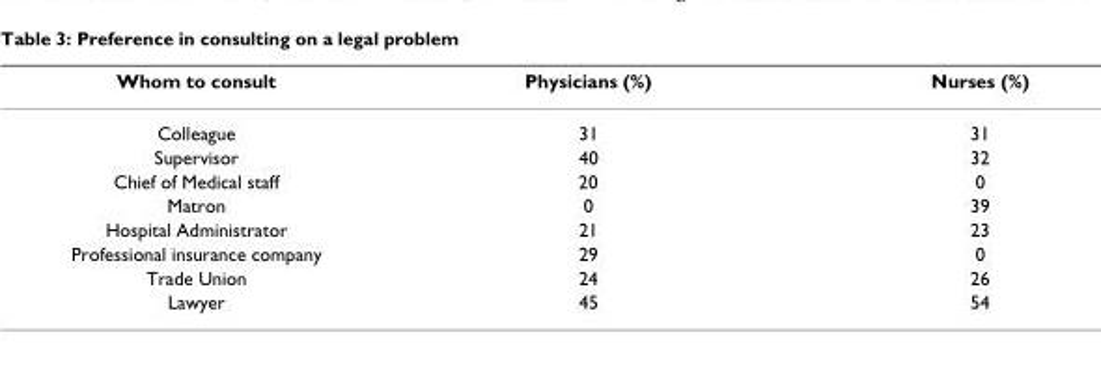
<table><thead><tr><td>Whom to consult</td><td>Physicians (%)</td><td>Nurses (%)</td></tr></thead><tbody><tr><td>Colleague</td><td>31</td><td>31</td></tr><tr><td>Supervisor</td><td>40</td><td>32</td></tr><tr><td>Chief of Medical staff</td><td>20</td><td>0</td></tr><tr><td>Matron</td><td>0</td><td>39</td></tr><tr><td>Hospital Administrator</td><td>21</td><td>23</td></tr><tr><td>Professional insurance company</td><td>29</td><td>0</td></tr><tr><td>Trade Union</td><td>24</td><td>26</td></tr><tr><td>Lawyer</td><td>45</td><td>54</td></tr></tbody></table>